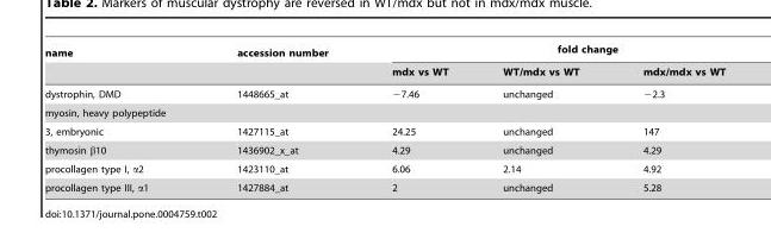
<table><thead><tr><td rowspan="2">name</td><td rowspan="2">accession number</td><td colspan="3">fold change</td></tr><tr><td>mdx vs WT</td><td>WT/mdx vs WT</td><td>mdx/mdx vs WT</td></tr></thead><tbody><tr><td>dystrophin, DMD</td><td>1448665_at</td><td>−7.46</td><td>unchanged</td><td>−2.3</td></tr><tr><td colspan="5">myosin, heavy polypeptide</td></tr><tr><td>3, embryonic</td><td>1427115_at</td><td>24.25</td><td>unchanged</td><td>147</td></tr><tr><td>thymosin β10</td><td>1436902_x_at</td><td>4.29</td><td>unchanged</td><td>4.29</td></tr><tr><td>procollagen type I, α2</td><td>1423110_at</td><td>6.06</td><td>2.14</td><td>4.92</td></tr><tr><td>procollagen type III, α1</td><td>1427884_at</td><td>2</td><td>unchanged</td><td>5.28</td></tr></tbody></table>